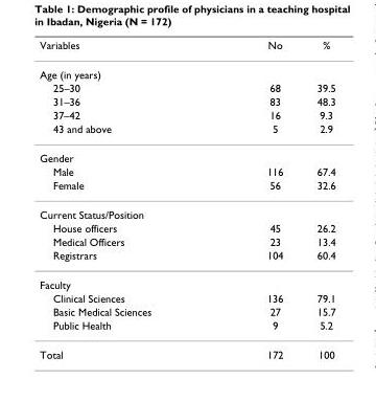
<table><thead><tr><td>Variables</td><td>No</td><td>%</td></tr></thead><tbody><tr><td colspan="3">Age (in years)</td></tr><tr><td>25–30</td><td>68</td><td>39.5</td></tr><tr><td>31–36</td><td>83</td><td>48.3</td></tr><tr><td>37–42</td><td>16</td><td>9.3</td></tr><tr><td>43 and above</td><td>5</td><td>2.9</td></tr><tr><td colspan="3">Gender</td></tr><tr><td>Male</td><td>116</td><td>67.4</td></tr><tr><td>Female</td><td>56</td><td>32.6</td></tr><tr><td colspan="3">Current Status/Position</td></tr><tr><td>House officers</td><td>45</td><td>26.2</td></tr><tr><td>Medical Officers</td><td>23</td><td>13.4</td></tr><tr><td>Registrars</td><td>104</td><td>60.4</td></tr><tr><td colspan="3">Faculty</td></tr><tr><td>Clinical Sciences</td><td>136</td><td>79.1</td></tr><tr><td>Basic Medical Sciences</td><td>27</td><td>15.7</td></tr><tr><td>Public Health</td><td>9</td><td>5.2</td></tr><tr><td>Total</td><td>172</td><td>100</td></tr></tbody></table>